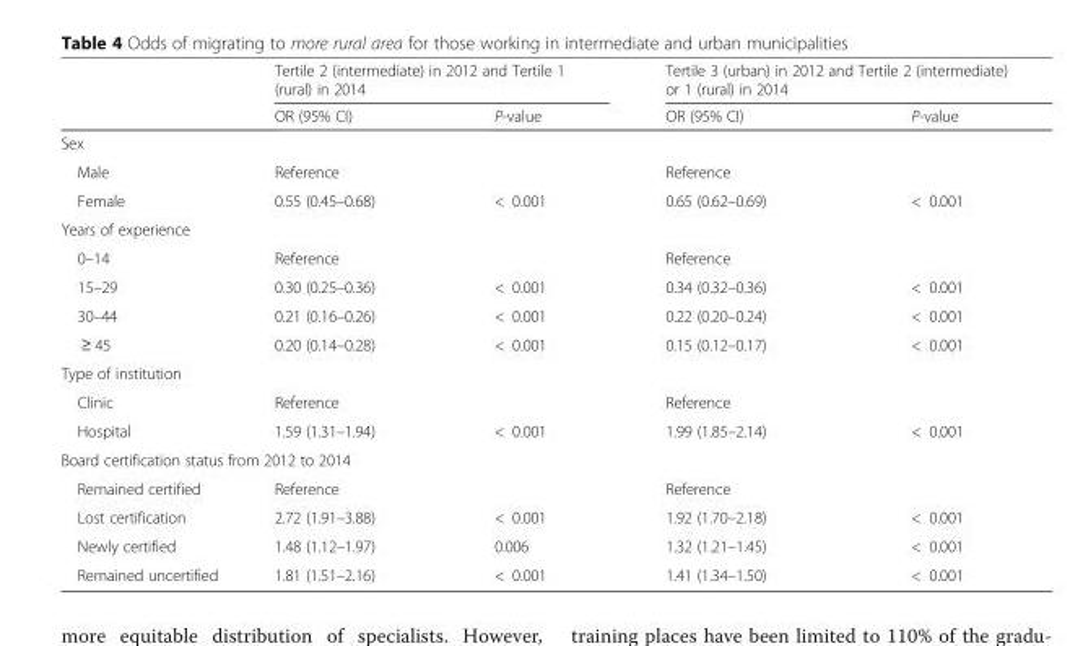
<table><thead><tr><td rowspan="2"></td><td colspan="2">Tertile 2 (intermediate) in 2012 and Tertile 1 (rural) in 2014</td><td colspan="2">Tertile 3 (urban) in 2012 and Tertile 2 (intermediate) or 1 (rural) in 2014</td></tr><tr><td>OR (95% CI)</td><td>P-value</td><td>OR (95% CI)</td><td>P-value</td></tr></thead><tbody><tr><td colspan="5">Sex</td></tr><tr><td>Male</td><td>Reference</td><td></td><td>Reference</td><td></td></tr><tr><td>Female</td><td>0.55 (0.45–0.68)</td><td>&lt; 0.001</td><td>0.65 (0.62–0.69)</td><td>&lt; 0.001</td></tr><tr><td colspan="5">Years of experience</td></tr><tr><td>0–14</td><td>Reference</td><td></td><td>Reference</td><td></td></tr><tr><td>15–29</td><td>0.30 (0.25–0.36)</td><td>&lt; 0.001</td><td>0.34 (0.32–0.36)</td><td>&lt; 0.001</td></tr><tr><td>30–44</td><td>0.21 (0.16–0.26)</td><td>&lt; 0.001</td><td>0.22 (0.20–0.24)</td><td>&lt; 0.001</td></tr><tr><td>≥ 45</td><td>0.20 (0.14–0.28)</td><td>&lt; 0.001</td><td>0.15 (0.12–0.17)</td><td>&lt; 0.001</td></tr><tr><td colspan="5">Type of institution</td></tr><tr><td>Clinic</td><td>Reference</td><td></td><td>Reference</td><td></td></tr><tr><td>Hospital</td><td>1.59 (1.31–1.94)</td><td>&lt; 0.001</td><td>1.99 (1.85–2.14)</td><td>&lt; 0.001</td></tr><tr><td colspan="5">Board certification status from 2012 to 2014</td></tr><tr><td>Remained certified</td><td>Reference</td><td></td><td>Reference</td><td></td></tr><tr><td>Lost certification</td><td>2.72 (1.91–3.88)</td><td>&lt; 0.001</td><td>1.92 (1.70–2.18)</td><td>&lt; 0.001</td></tr><tr><td>Newly certified</td><td>1.48 (1.12–1.97)</td><td>0.006</td><td>1.32 (1.21–1.45)</td><td>&lt; 0.001</td></tr><tr><td>Remained uncertified</td><td>1.81 (1.51–2.16)</td><td>&lt; 0.001</td><td>1.41 (1.34–1.50)</td><td>&lt; 0.001</td></tr></tbody></table>